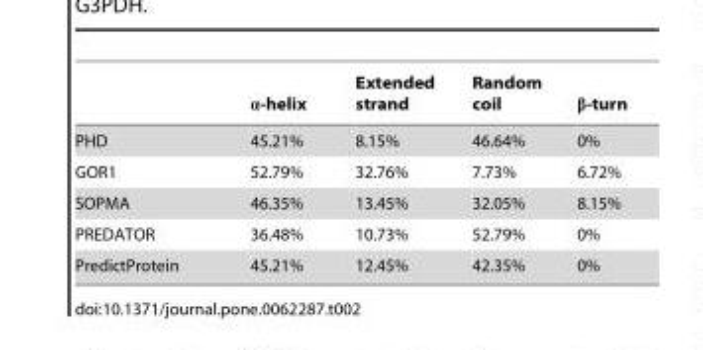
<table><thead><tr><td></td><td>α-helix</td><td>Extended strand</td><td>Random coil</td><td>β-turn</td></tr></thead><tbody><tr><td>PHD</td><td>45.21%</td><td>8.15%</td><td>46.64%</td><td>0%</td></tr><tr><td>GOR1</td><td>52.79%</td><td>32.76%</td><td>7.73%</td><td>6.72%</td></tr><tr><td>SOPMA</td><td>46.35%</td><td>13.45%</td><td>32.05%</td><td>8.15%</td></tr><tr><td>PREDATOR</td><td>36.48%</td><td>10.73%</td><td>52.79%</td><td>0%</td></tr><tr><td>PredictProtein</td><td>45.21%</td><td>12.45%</td><td>42.35%</td><td>0%</td></tr></tbody></table>